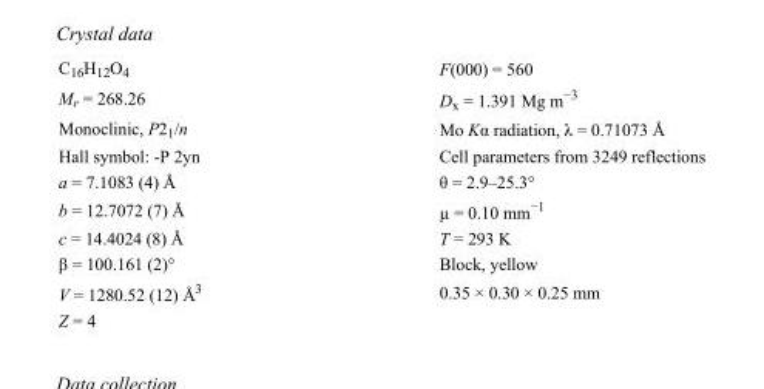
<table><tbody><tr><td>C<sub>16</sub>H<sub>12</sub>O<sub>4</sub></td><td>F(000) = 560</td></tr><tr><td>M<sub>r</sub> = 268.26</td><td>D<sub>x</sub> = 1.391 Mg m<sup>−3</sup></td></tr><tr><td>Monoclinic, P2<sub>1</sub>/n</td><td>Mo Kα radiation, λ = 0.71073 Å</td></tr><tr><td>Hall symbol: -P 2yn</td><td>Cell parameters from 3249 reflections</td></tr><tr><td>a = 7.1083 (4) Å</td><td>θ = 2.9–25.3°</td></tr><tr><td>b = 12.7072 (7) Å</td><td>µ = 0.10 mm<sup>−1</sup></td></tr><tr><td>c = 14.4024 (8) Å</td><td>T = 293 K</td></tr><tr><td>β = 100.161 (2)°</td><td>Block, yellow</td></tr><tr><td>V = 1280.52 (12) Å<sup>3</sup></td><td>0.35 × 0.30 × 0.25 mm</td></tr><tr><td>Z = 4</td><td></td></tr></tbody></table>